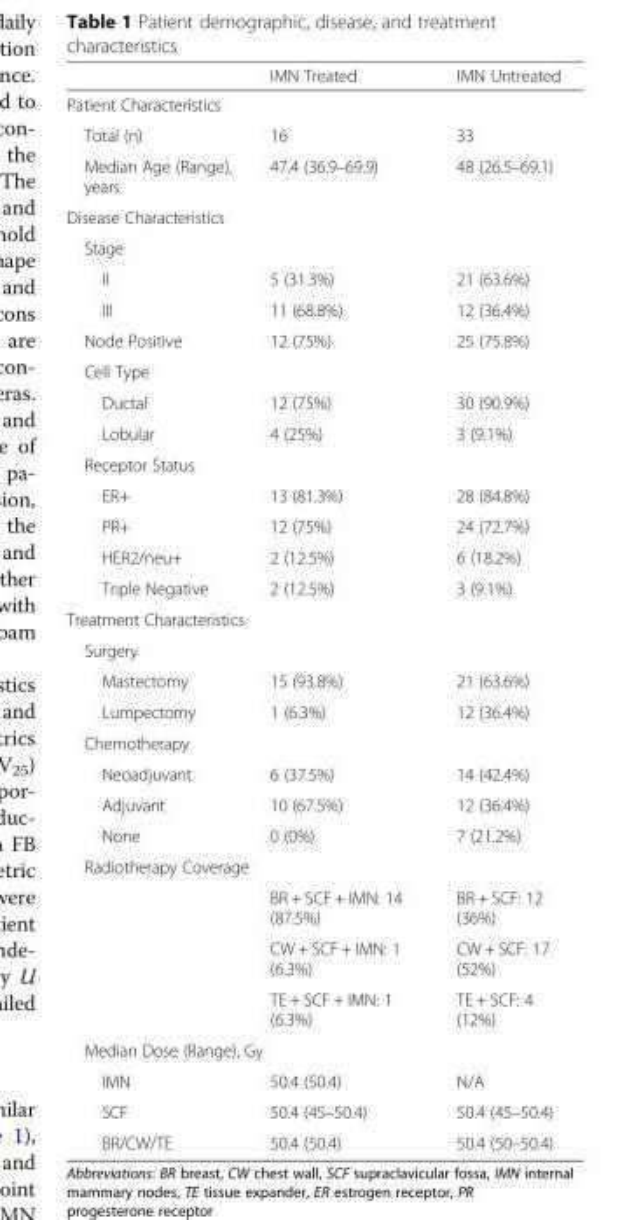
<table><thead><tr><td></td><td>IMN Treated</td><td>IMN Untreated</td></tr></thead><tbody><tr><td colspan="3">Patient Characteristics</td></tr><tr><td>Total (n)</td><td>16</td><td>33</td></tr><tr><td>Median Age (Range), years</td><td>47.4 (36.9–69.9)</td><td>48 (26.5–69.1)</td></tr><tr><td colspan="3">Disease Characteristics</td></tr><tr><td colspan="3">Stage</td></tr><tr><td>II</td><td>5 (31.3%)</td><td>21 (63.6%)</td></tr><tr><td>III</td><td>11 (68.8%)</td><td>12 (36.4%)</td></tr><tr><td>Node Positive</td><td>12 (75%)</td><td>25 (75.8%)</td></tr><tr><td colspan="3">Cell Type</td></tr><tr><td>Ductal</td><td>12 (75%)</td><td>30 (90.9%)</td></tr><tr><td>Lobular</td><td>4 (25%)</td><td>3 (9.1%)</td></tr><tr><td colspan="3">Receptor Status</td></tr><tr><td>ER+</td><td>13 (81.3%)</td><td>28 (84.8%)</td></tr><tr><td>PR+</td><td>12 (75%)</td><td>24 (72.7%)</td></tr><tr><td>HER2/neu+</td><td>2 (12.5%)</td><td>6 (18.2%)</td></tr><tr><td>Triple Negative</td><td>2 (12.5%)</td><td>3 (9.1%)</td></tr><tr><td colspan="3">Treatment Characteristics</td></tr><tr><td colspan="3">Surgery</td></tr><tr><td>Mastectomy</td><td>15 (93.8%)</td><td>21 (63.6%)</td></tr><tr><td>Lumpectomy</td><td>1 (6.3%)</td><td>12 (36.4%)</td></tr><tr><td colspan="3">Chemotherapy</td></tr><tr><td>Neoadjuvant</td><td>6 (37.5%)</td><td>14 (42.4%)</td></tr><tr><td>Adjuvant</td><td>10 (67.5%)</td><td>12 (36.4%)</td></tr><tr><td>None</td><td>0 (0%)</td><td>7 (21.2%)</td></tr><tr><td colspan="3">Radiotherapy Coverage</td></tr><tr><td></td><td>BR + SCF + IMN: 14 (87.5%)</td><td>BR + SCF: 12 (36%)</td></tr><tr><td></td><td>CW + SCF + IMN: 1 (6.3%)</td><td>CW + SCF: 17 (52%)</td></tr><tr><td></td><td>TE + SCF + IMN: 1 (6.3%)</td><td>TE + SCF: 4 (12%)</td></tr><tr><td colspan="3">Median Dose (Range), Gy</td></tr><tr><td>IMN</td><td>50.4 (50.4)</td><td>N/A</td></tr><tr><td>SCF</td><td>50.4 (45–50.4)</td><td>50.4 (45–50.4)</td></tr><tr><td>BR/CW/TE</td><td>50.4 (50.4)</td><td>50.4 (50–50.4)</td></tr></tbody></table>